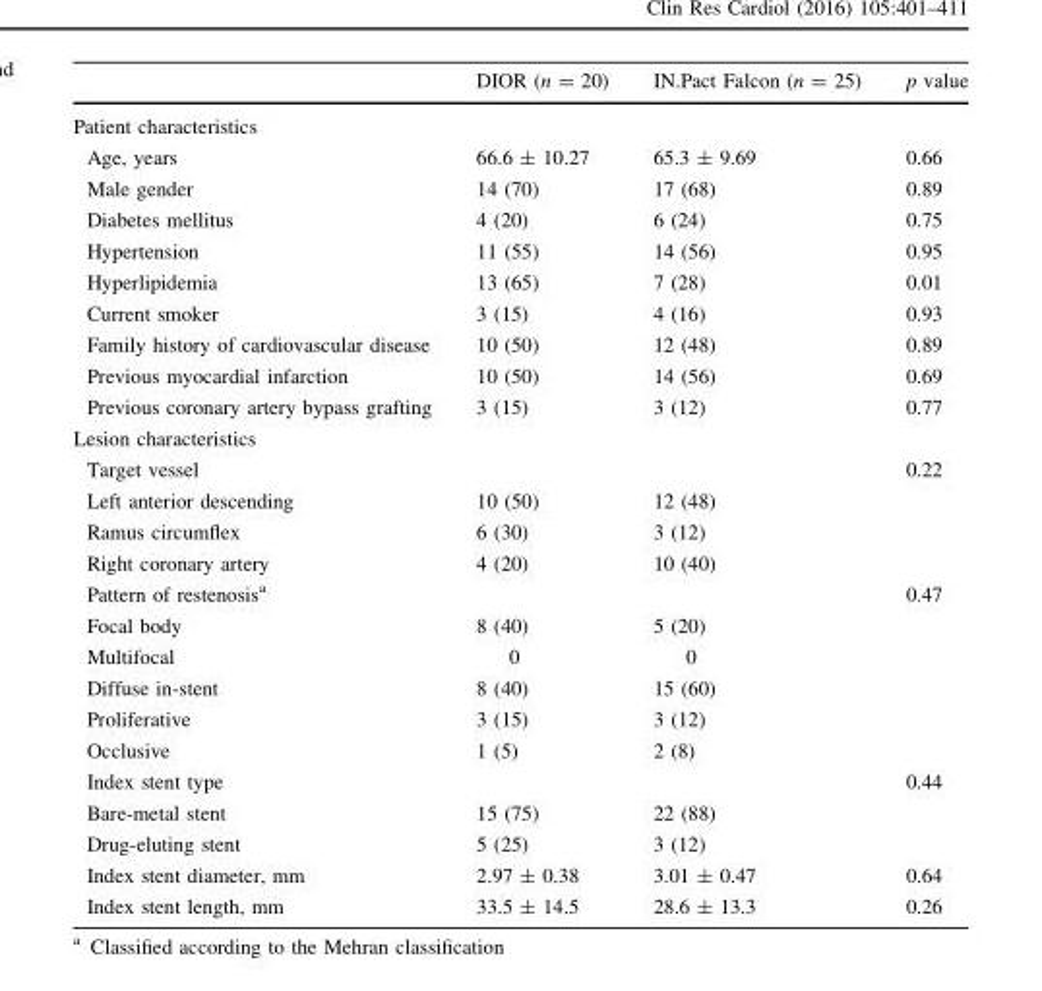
<table><thead><tr><td></td><td>DIOR (n = 20)</td><td>IN.Pact Falcon (n = 25)</td><td>p value</td></tr></thead><tbody><tr><td colspan="4">Patient characteristics</td></tr><tr><td>Age, years</td><td>66.6 ± 10.27</td><td>65.3 ± 9.69</td><td>0.66</td></tr><tr><td>Male gender</td><td>14 (70)</td><td>17 (68)</td><td>0.89</td></tr><tr><td>Diabetes mellitus</td><td>4 (20)</td><td>6 (24)</td><td>0.75</td></tr><tr><td>Hypertension</td><td>11 (55)</td><td>14 (56)</td><td>0.95</td></tr><tr><td>Hyperlipidemia</td><td>13 (65)</td><td>7 (28)</td><td>0.01</td></tr><tr><td>Current smoker</td><td>3 (15)</td><td>4 (16)</td><td>0.93</td></tr><tr><td>Family history of cardiovascular disease</td><td>10 (50)</td><td>12 (48)</td><td>0.89</td></tr><tr><td>Previous myocardial infarction</td><td>10 (50)</td><td>14 (56)</td><td>0.69</td></tr><tr><td>Previous coronary artery bypass grafting</td><td>3 (15)</td><td>3 (12)</td><td>0.77</td></tr><tr><td colspan="4">Lesion characteristics</td></tr><tr><td>Target vessel</td><td></td><td></td><td>0.22</td></tr><tr><td>Left anterior descending</td><td>10 (50)</td><td>12 (48)</td><td></td></tr><tr><td>Ramus circumflex</td><td>6 (30)</td><td>3 (12)</td><td></td></tr><tr><td>Right coronary artery</td><td>4 (20)</td><td>10 (40)</td><td></td></tr><tr><td>Pattern of restenosis<sup>a</sup></td><td></td><td></td><td>0.47</td></tr><tr><td>Focal body</td><td>8 (40)</td><td>5 (20)</td><td></td></tr><tr><td>Multifocal</td><td>0</td><td>0</td><td></td></tr><tr><td>Diffuse in-stent</td><td>8 (40)</td><td>15 (60)</td><td></td></tr><tr><td>Proliferative</td><td>3 (15)</td><td>3 (12)</td><td></td></tr><tr><td>Occlusive</td><td>1 (5)</td><td>2 (8)</td><td></td></tr><tr><td>Index stent type</td><td></td><td></td><td>0.44</td></tr><tr><td>Bare-metal stent</td><td>15 (75)</td><td>22 (88)</td><td></td></tr><tr><td>Drug-eluting stent</td><td>5 (25)</td><td>3 (12)</td><td></td></tr><tr><td>Index stent diameter, mm</td><td>2.97 ± 0.38</td><td>3.01 ± 0.47</td><td>0.64</td></tr><tr><td>Index stent length, mm</td><td>33.5 ± 14.5</td><td>28.6 ± 13.3</td><td>0.26</td></tr></tbody></table>